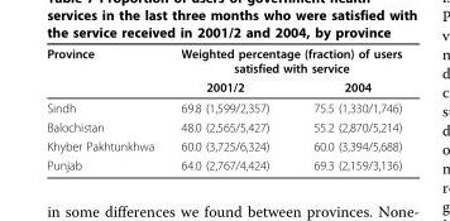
<table><thead><tr><td rowspan="2">Province</td><td colspan="2">Weighted percentage (fraction) of users satisfied with service</td></tr><tr><td>2001/2</td><td>2004</td></tr></thead><tbody><tr><td>Sindh</td><td>69.8 (1,599/2,357)</td><td>75.5 (1,330/1,746)</td></tr><tr><td>Balochistan</td><td>48.0 (2,565/5,427)</td><td>55.2 (2,870/5,214)</td></tr><tr><td>Khyber Pakhtunkhwa</td><td>60.0 (3,725/6,324)</td><td>60.0 (3,394/5,688)</td></tr><tr><td>Punjab</td><td>64.0 (2,767/4,424)</td><td>69.3 (2,159/3,136)</td></tr></tbody></table>